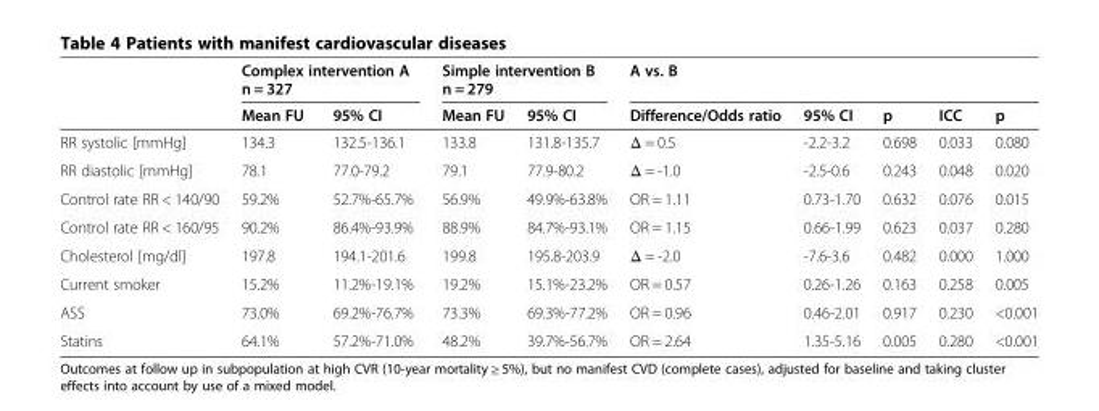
<table><thead><tr><td rowspan="2"></td><td colspan="2">Complex intervention A n = 327</td><td colspan="2">Simple intervention B n = 279</td><td colspan="5">A vs. B</td></tr><tr><td>Mean FU</td><td>95% CI</td><td>Mean FU</td><td>95% CI</td><td>Difference/Odds ratio</td><td>95% CI</td><td>p</td><td>ICC</td><td>p</td></tr></thead><tbody><tr><td>RR systolic [mmHg]</td><td>134.3</td><td>132.5-136.1</td><td>133.8</td><td>131.8-135.7</td><td>Δ = 0.5</td><td>-2.2-3.2</td><td>0.698</td><td>0.033</td><td>0.080</td></tr><tr><td>RR diastolic [mmHg]</td><td>78.1</td><td>77.0-79.2</td><td>79.1</td><td>77.9-80.2</td><td>Δ = -1.0</td><td>-2.5-0.6</td><td>0.243</td><td>0.048</td><td>0.020</td></tr><tr><td>Control rate RR &lt; 140/90</td><td>59.2%</td><td>52.7%-65.7%</td><td>56.9%</td><td>49.9%-63.8%</td><td>OR = 1.11</td><td>0.73-1.70</td><td>0.632</td><td>0.076</td><td>0.015</td></tr><tr><td>Control rate RR &lt; 160/95</td><td>90.2%</td><td>86.4%-93.9%</td><td>88.9%</td><td>84.7%-93.1%</td><td>OR = 1.15</td><td>0.66-1.99</td><td>0.623</td><td>0.037</td><td>0.280</td></tr><tr><td>Cholesterol [mg/dl]</td><td>197.8</td><td>194.1-201.6</td><td>199.8</td><td>195.8-203.9</td><td>Δ = -2.0</td><td>-7.6-3.6</td><td>0.482</td><td>0.000</td><td>1.000</td></tr><tr><td>Current smoker</td><td>15.2%</td><td>11.2%-19.1%</td><td>19.2%</td><td>15.1%-23.2%</td><td>OR = 0.57</td><td>0.26-1.26</td><td>0.163</td><td>0.258</td><td>0.005</td></tr><tr><td>ASS</td><td>73.0%</td><td>69.2%-76.7%</td><td>73.3%</td><td>69.3%-77.2%</td><td>OR = 0.96</td><td>0.46-2.01</td><td>0.917</td><td>0.230</td><td>&lt;0.001</td></tr><tr><td>Statins</td><td>64.1%</td><td>57.2%-71.0%</td><td>48.2%</td><td>39.7%-56.7%</td><td>OR = 2.64</td><td>1.35-5.16</td><td>0.005</td><td>0.280</td><td>&lt;0.001</td></tr></tbody></table>